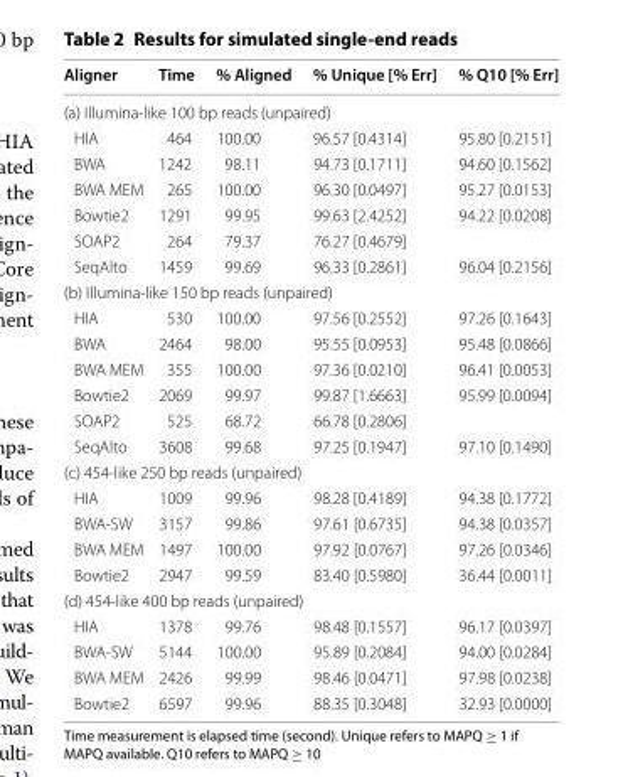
<table><thead><tr><td>Aligner</td><td>Time</td><td>% Aligned</td><td>% Unique [% Err]</td><td>% Q10 [% Err]</td></tr></thead><tbody><tr><td colspan="5">(a) Illumina-like 100 bp reads (unpaired)</td></tr><tr><td>HIA</td><td>464</td><td>100.00</td><td>96.57 [0.4314]</td><td>95.80 [0.2151]</td></tr><tr><td>BWA</td><td>1242</td><td>98.11</td><td>94.73 [0.1711]</td><td>94.60 [0.1562]</td></tr><tr><td>BWA MEM</td><td>265</td><td>100.00</td><td>96.30 [0.0497]</td><td>95.27 [0.0153]</td></tr><tr><td>Bowtie2</td><td>1291</td><td>99.95</td><td>99.63 [2.4252]</td><td>94.22 [0.0208]</td></tr><tr><td>SOAP2</td><td>264</td><td>79.37</td><td>76.27 [0.4679]</td><td></td></tr><tr><td>SeqAlto</td><td>1459</td><td>99.69</td><td>96.33 [0.2861]</td><td>96.04 [0.2156]</td></tr><tr><td colspan="5">(b) Illumina-like 150 bp reads (unpaired)</td></tr><tr><td>HIA</td><td>530</td><td>100.00</td><td>97.56 [0.2552]</td><td>97.26 [0.1643]</td></tr><tr><td>BWA</td><td>2464</td><td>98.00</td><td>95.55 [0.0953]</td><td>95.48 [0.0866]</td></tr><tr><td>BWA MEM</td><td>355</td><td>100.00</td><td>97.36 [0.0210]</td><td>96.41 [0.0053]</td></tr><tr><td>Bowtie2</td><td>2069</td><td>99.97</td><td>99.87 [1.6663]</td><td>95.99 [0.0094]</td></tr><tr><td>SOAP2</td><td>525</td><td>68.72</td><td>66.78 [0.2806]</td><td></td></tr><tr><td>SeqAlto</td><td>3608</td><td>99.68</td><td>97.25 [0.1947]</td><td>97.10 [0.1490]</td></tr><tr><td colspan="5">(c) 454-like 250 bp reads (unpaired)</td></tr><tr><td>HIA</td><td>1009</td><td>99.96</td><td>98.28 [0.4189]</td><td>94.38 [0.1772]</td></tr><tr><td>BWA-SW</td><td>3157</td><td>99.86</td><td>97.61 [0.6735]</td><td>94.38 [0.0357]</td></tr><tr><td>BWA MEM</td><td>1497</td><td>100.00</td><td>97.92 [0.0767]</td><td>97.26 [0.0346]</td></tr><tr><td>Bowtie2</td><td>2947</td><td>99.59</td><td>83.40 [0.5980]</td><td>36.44 [0.0011]</td></tr><tr><td colspan="5">(d) 454-like 400 bp reads (unpaired)</td></tr><tr><td>HIA</td><td>1378</td><td>99.76</td><td>98.48 [0.1557]</td><td>96.17 [0.0397]</td></tr><tr><td>BWA-SW</td><td>5144</td><td>100.00</td><td>95.89 [0.2084]</td><td>94.00 [0.0284]</td></tr><tr><td>BWA MEM</td><td>2426</td><td>99.99</td><td>98.46 [0.0471]</td><td>97.98 [0.0238]</td></tr><tr><td>Bowtie2</td><td>6597</td><td>99.96</td><td>88.35 [0.3048]</td><td>32.93 [0.0000]</td></tr></tbody></table>